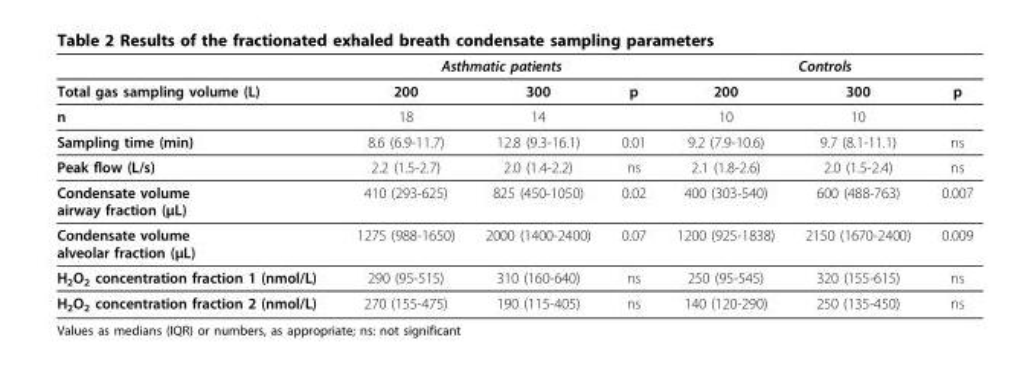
<table><thead><tr><td rowspan="2">Total gas sampling volume (L)</td><td colspan="3">Asthmatic patients</td><td colspan="3">Controls</td></tr><tr><td>200</td><td>300</td><td>p</td><td>200</td><td>300</td><td>p</td></tr></thead><tbody><tr><td>n</td><td>18</td><td>14</td><td></td><td>10</td><td>10</td><td></td></tr><tr><td>Sampling time (min)</td><td>8.6 (6.9-11.7)</td><td>12.8 (9.3-16.1)</td><td>0.01</td><td>9.2 (7.9-10.6)</td><td>9.7 (8.1-11.1)</td><td>ns</td></tr><tr><td>Peak flow (L/s)</td><td>2.2 (1.5-2.7)</td><td>2.0 (1.4-2.2)</td><td>ns</td><td>2.1 (1.8-2.6)</td><td>2.0 (1.5-2.4)</td><td>ns</td></tr><tr><td>Condensate volume airway fraction (μL)</td><td>410 (293-625)</td><td>825 (450-1050)</td><td>0.02</td><td>400 (303-540)</td><td>600 (488-763)</td><td>0.007</td></tr><tr><td>Condensate volume alveolar fraction (μL)</td><td>1275 (988-1650)</td><td>2000 (1400-2400)</td><td>0.07</td><td>1200 (925-1838)</td><td>2150 (1670-2400)</td><td>0.009</td></tr><tr><td>H<sub>2</sub>O<sub>2</sub> concentration fraction 1 (nmol/L)</td><td>290 (95-515)</td><td>310 (160-640)</td><td>ns</td><td>250 (95-545)</td><td>320 (155-615)</td><td>ns</td></tr><tr><td>H<sub>2</sub>O<sub>2</sub> concentration fraction 2 (nmol/L)</td><td>270 (155-475)</td><td>190 (115-405)</td><td>ns</td><td>140 (120-290)</td><td>250 (135-450)</td><td>ns</td></tr></tbody></table>